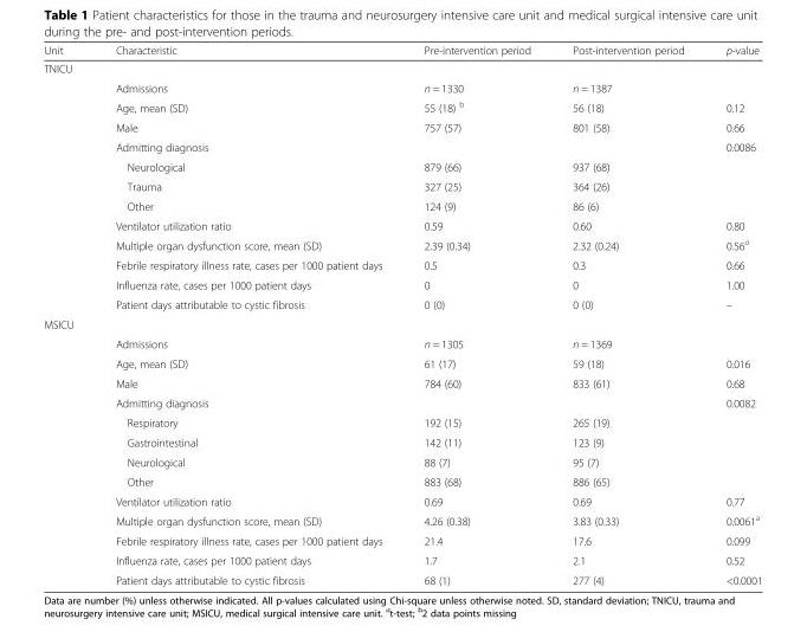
<table><thead><tr><td>Unit</td><td>Characteristic</td><td>Pre-intervention period</td><td>Post-intervention period</td><td>p-value</td></tr></thead><tbody><tr><td colspan="5">TNICU</td></tr><tr><td></td><td>Admissions</td><td>n = 1330</td><td>n = 1387</td><td></td></tr><tr><td></td><td>Age, mean (SD)</td><td>55 (18) <sup>b</sup></td><td>56 (18)</td><td>0.12</td></tr><tr><td></td><td>Male</td><td>757 (57)</td><td>801 (58)</td><td>0.66</td></tr><tr><td rowspan="4"></td><td>Admitting diagnosis</td><td></td><td></td><td rowspan="4">0.0086</td></tr><tr><td>Neurological</td><td>879 (66)</td><td>937 (68)</td></tr><tr><td>Trauma</td><td>327 (25)</td><td>364 (26)</td></tr><tr><td>Other</td><td>124 (9)</td><td>86 (6)</td></tr><tr><td></td><td>Ventilator utilization ratio</td><td>0.59</td><td>0.60</td><td>0.80</td></tr><tr><td></td><td>Multiple organ dysfunction score, mean (SD)</td><td>2.39 (0.34)</td><td>2.32 (0.24)</td><td>0.56<sup>a</sup></td></tr><tr><td></td><td>Febrile respiratory illness rate, cases per 1000 patient days</td><td>0.5</td><td>0.3</td><td>0.66</td></tr><tr><td></td><td>Influenza rate, cases per 1000 patient days</td><td>0</td><td>0</td><td>1.00</td></tr><tr><td></td><td>Patient days attributable to cystic fibrosis</td><td>0 (0)</td><td>0 (0)</td><td>–</td></tr><tr><td colspan="5">MSICU</td></tr><tr><td></td><td>Admissions</td><td>n = 1305</td><td>n = 1369</td><td></td></tr><tr><td></td><td>Age, mean (SD)</td><td>61 (17)</td><td>59 (18)</td><td>0.016</td></tr><tr><td></td><td>Male</td><td>784 (60)</td><td>833 (61)</td><td>0.68</td></tr><tr><td rowspan="5"></td><td>Admitting diagnosis</td><td></td><td></td><td rowspan="5">0.0082</td></tr><tr><td>Respiratory</td><td>192 (15)</td><td>265 (19)</td></tr><tr><td>Gastrointestinal</td><td>142 (11)</td><td>123 (9)</td></tr><tr><td>Neurological</td><td>88 (7)</td><td>95 (7)</td></tr><tr><td>Other</td><td>883 (68)</td><td>886 (65)</td></tr><tr><td></td><td>Ventilator utilization ratio</td><td>0.69</td><td>0.69</td><td>0.77</td></tr><tr><td></td><td>Multiple organ dysfunction score, mean (SD)</td><td>4.26 (0.38)</td><td>3.83 (0.33)</td><td>0.0061<sup>a</sup></td></tr><tr><td></td><td>Febrile respiratory illness rate, cases per 1000 patient days</td><td>21.4</td><td>17.6</td><td>0.099</td></tr><tr><td></td><td>Influenza rate, cases per 1000 patient days</td><td>1.7</td><td>2.1</td><td>0.52</td></tr><tr><td></td><td>Patient days attributable to cystic fibrosis</td><td>68 (1)</td><td>277 (4)</td><td>&lt;0.0001</td></tr></tbody></table>